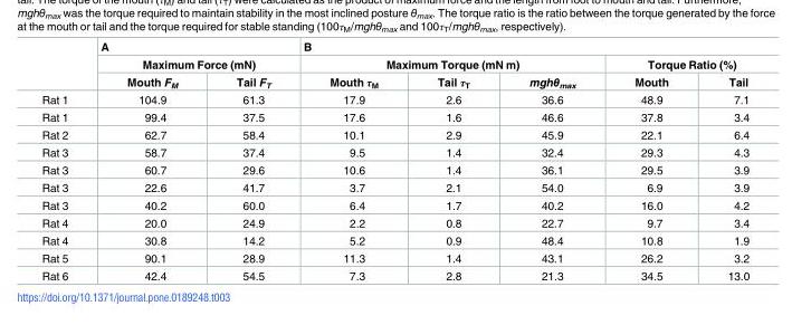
<table><thead><tr><td rowspan="3"></td><td rowspan="2" colspan="2">A Maximum Force (mN)</td><td colspan="5">B</td></tr><tr><td colspan="3">Maximum Torque (mN m)</td><td colspan="2">Torque Ratio (%)</td></tr><tr><td>Mouth F<sub>M</sub></td><td>Tail F<sub>T</sub></td><td>Mouth τ<sub>M</sub></td><td>Tail τ<sub>T</sub></td><td>mghθ<sub>max</sub></td><td>Mouth</td><td>Tail</td></tr></thead><tbody><tr><td>Rat 1</td><td>104.9</td><td>61.3</td><td>17.9</td><td>2.6</td><td>36.6</td><td>48.9</td><td>7.1</td></tr><tr><td>Rat 1</td><td>99.4</td><td>37.5</td><td>17.6</td><td>1.6</td><td>46.6</td><td>37.8</td><td>3.4</td></tr><tr><td>Rat 2</td><td>62.7</td><td>58.4</td><td>10.1</td><td>2.9</td><td>45.9</td><td>22.1</td><td>6.4</td></tr><tr><td>Rat 3</td><td>58.7</td><td>37.4</td><td>9.5</td><td>1.4</td><td>32.4</td><td>29.3</td><td>4.3</td></tr><tr><td>Rat 3</td><td>60.7</td><td>29.6</td><td>10.6</td><td>1.4</td><td>36.1</td><td>29.5</td><td>3.9</td></tr><tr><td>Rat 3</td><td>22.6</td><td>41.7</td><td>3.7</td><td>2.1</td><td>54.0</td><td>6.9</td><td>3.9</td></tr><tr><td>Rat 3</td><td>40.2</td><td>60.0</td><td>6.4</td><td>1.7</td><td>40.2</td><td>16.0</td><td>4.2</td></tr><tr><td>Rat 4</td><td>20.0</td><td>24.9</td><td>2.2</td><td>0.8</td><td>22.7</td><td>9.7</td><td>3.4</td></tr><tr><td>Rat 4</td><td>30.8</td><td>14.2</td><td>5.2</td><td>0.9</td><td>48.4</td><td>10.8</td><td>1.9</td></tr><tr><td>Rat 5</td><td>90.1</td><td>28.9</td><td>11.3</td><td>1.4</td><td>43.1</td><td>26.2</td><td>3.2</td></tr><tr><td>Rat 6</td><td>42.4</td><td>54.5</td><td>7.3</td><td>2.8</td><td>21.3</td><td>34.5</td><td>13.0</td></tr></tbody></table>